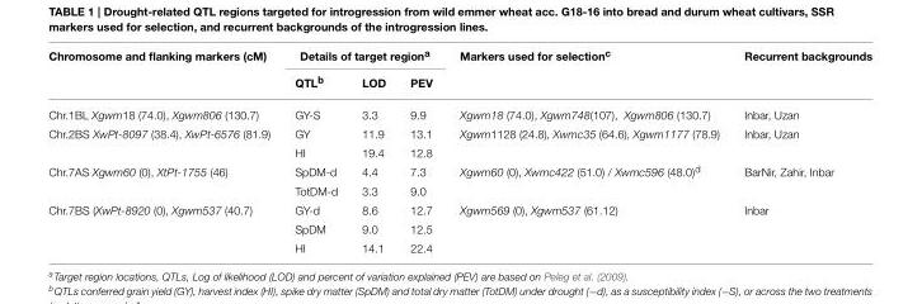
<table><thead><tr><td rowspan="2">Chromosome and flanking markers (cM)</td><td colspan="3">Details of target region<sup>a</sup></td><td rowspan="2">Markers used for selection<sup>c</sup></td><td rowspan="2">Recurrent backgrounds</td></tr><tr><td>QTL<sup>b</sup></td><td>LOD</td><td>PEV</td></tr></thead><tbody><tr><td>Chr.1BL Xgwm18 (74.0), Xgwm806 (130.7)</td><td>GY-S</td><td>3.3</td><td>9.9</td><td>Xgwm18 (74.0), Xgwm748(107), Xgwm806 (130.7)</td><td>Inbar, Uzan</td></tr><tr><td rowspan="2">Chr.2BS XwPt-8097 (38.4), XwPt-6576 (81.9)</td><td>GY</td><td>11.9</td><td>13.1</td><td>Xgwm1128 (24.8), Xwmc35 (64.6), Xgwm1177 (78.9)</td><td>Inbar, Uzan</td></tr><tr><td>HI</td><td>19.4</td><td>12.8</td><td></td><td></td></tr><tr><td rowspan="2">Chr.7AS Xgwm60 (0), XtPt-1755 (46)</td><td>SpDM-d</td><td>4.4</td><td>7.3</td><td>Xgwm60 (0), Xwmc422 (51.0) / Xwmc596 (48.0)<sup>d</sup></td><td>BarNir, Zahir, Inbar</td></tr><tr><td>TotDM-d</td><td>3.3</td><td>9.0</td><td></td><td></td></tr><tr><td rowspan="3">Chr.7BS (XwPt-8920 (0), Xgwm537 (40.7)</td><td>GY-d</td><td>8.6</td><td>12.7</td><td>Xgwm569 (0), Xgwm537 (61.12)</td><td>Inbar</td></tr><tr><td>SpDM</td><td>9.0</td><td>12.5</td><td></td><td></td></tr><tr><td>HI</td><td>14.1</td><td>22.4</td><td></td><td></td></tr></tbody></table>